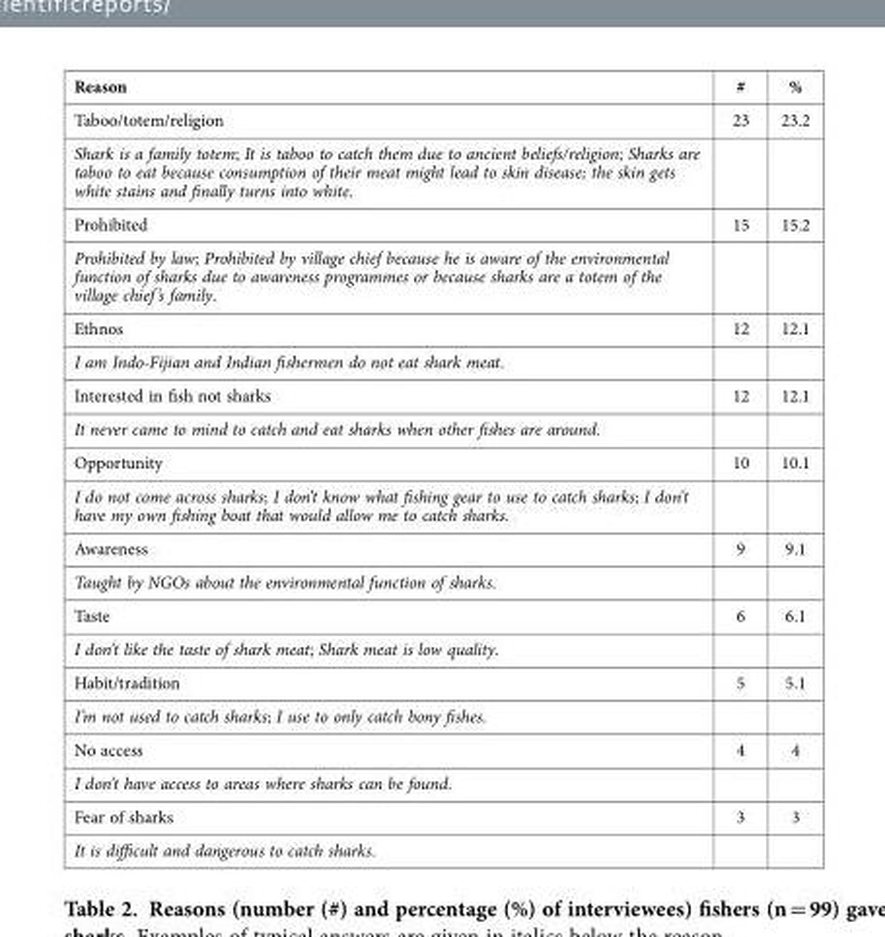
<table><tbody><tr><td>Reason</td><td>#</td><td>%</td></tr><tr><td>Taboo/totem/religion</td><td>23</td><td>23.2</td></tr><tr><td colspan="3">Shark is a family totem; It is taboo to catch them due to ancient beliefs/religion; Sharks are taboo to eat because consumption of their meat might lead to skin disease; the skin gets white stains and finally turns into white.</td></tr><tr><td>Prohibited</td><td>15</td><td>15.2</td></tr><tr><td colspan="3">Prohibited by law; Prohibited by village chief because he is aware of the environmental function of sharks due to awareness programmes or because sharks are a totem of the village chief’s family.</td></tr><tr><td>Ethnos</td><td>12</td><td>12.1</td></tr><tr><td colspan="3">I am Indo-Fijian and Indian fishermen do not eat shark meat.</td></tr><tr><td>Interested in fish not sharks</td><td>12</td><td>12.1</td></tr><tr><td colspan="3">It never came to mind to catch and eat sharks when other fishes are around.</td></tr><tr><td>Opportunity</td><td>10</td><td>10.1</td></tr><tr><td colspan="3">I do not come across sharks; I don’t know what fishing gear to use to catch sharks; I don’t have my own fishing boat that would allow me to catch sharks.</td></tr><tr><td>Awareness</td><td>9</td><td>9.1</td></tr><tr><td colspan="3">Taught by NGOs about the environmental function of sharks.</td></tr><tr><td>Taste</td><td>6</td><td>6.1</td></tr><tr><td colspan="3">I don’t like the taste of shark meat; Shark meat is low quality.</td></tr><tr><td>Habit/tradition</td><td>5</td><td>5.1</td></tr><tr><td colspan="3">I’m not used to catch sharks; I use to only catch bony fishes.</td></tr><tr><td>No access</td><td>4</td><td>4</td></tr><tr><td colspan="3">I don’t have access to areas where sharks can be found.</td></tr><tr><td>Fear of sharks</td><td>3</td><td>3</td></tr><tr><td>It is difficult and dangerous to catch sharks.</td><td></td><td></td></tr></tbody></table>